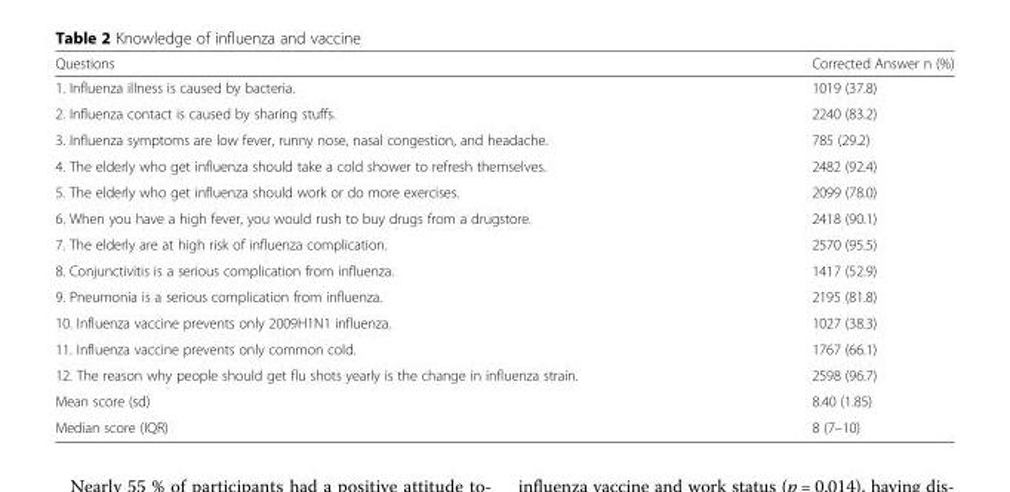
<table><thead><tr><td>Questions</td><td>Corrected Answer n (%)</td></tr></thead><tbody><tr><td>1. Influenza illness is caused by bacteria.</td><td>1019 (37.8)</td></tr><tr><td>2. Influenza contact is caused by sharing stuffs.</td><td>2240 (83.2)</td></tr><tr><td>3. Influenza symptoms are low fever, runny nose, nasal congestion, and headache.</td><td>785 (29.2)</td></tr><tr><td>4. The elderly who get influenza should take a cold shower to refresh themselves.</td><td>2482 (92.4)</td></tr><tr><td>5. The elderly who get influenza should work or do more exercises.</td><td>2099 (78.0)</td></tr><tr><td>6. When you have a high fever, you would rush to buy drugs from a drugstore.</td><td>2418 (90.1)</td></tr><tr><td>7. The elderly are at high risk of influenza complication.</td><td>2570 (95.5)</td></tr><tr><td>8. Conjunctivitis is a serious complication from influenza.</td><td>1417 (52.9)</td></tr><tr><td>9. Pneumonia is a serious complication from influenza.</td><td>2195 (81.8)</td></tr><tr><td>10. Influenza vaccine prevents only 2009H1N1 influenza.</td><td>1027 (38.3)</td></tr><tr><td>11. Influenza vaccine prevents only common cold.</td><td>1767 (66.1)</td></tr><tr><td>12. The reason why people should get flu shots yearly is the change in influenza strain.</td><td>2598 (96.7)</td></tr><tr><td>Mean score (sd)</td><td>8.40 (1.85)</td></tr><tr><td>Median score (IQR)</td><td>8 (7–10)</td></tr></tbody></table>